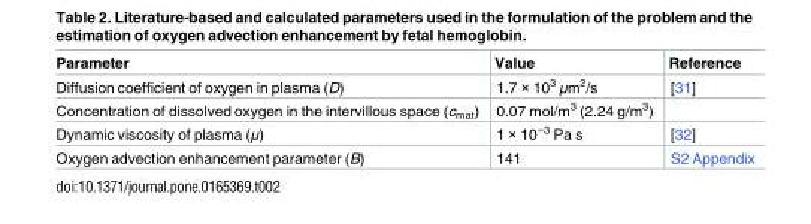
<table><thead><tr><td>Parameter</td><td>Value</td><td>Reference</td></tr></thead><tbody><tr><td>Diffusion coefficient of oxygen in plasma (D)</td><td>1.7 × 10<sup>3</sup> μm<sup>2</sup>/s</td><td>[31]</td></tr><tr><td>Concentration of dissolved oxygen in the intervillous space (c<sub>mat</sub>)</td><td>0.07 mol/m<sup>3</sup> (2.24 g/m<sup>3</sup>)</td><td></td></tr><tr><td>Dynamic viscosity of plasma (μ)</td><td>1 × 10<sup>−3</sup> Pa s</td><td>[32]</td></tr><tr><td>Oxygen advection enhancement parameter (B)</td><td>141</td><td>S2 Appendix</td></tr></tbody></table>